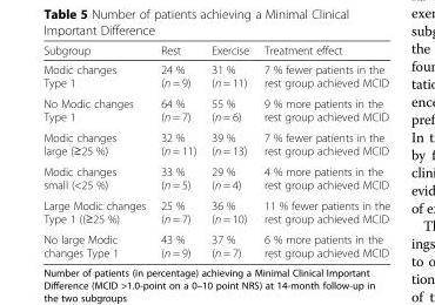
<table><thead><tr><td>Subgroup</td><td>Rest</td><td>Exercise</td><td>Treatment effect</td></tr></thead><tbody><tr><td>Modic changes Type 1</td><td>24 % (n = 9)</td><td>31 % (n = 11)</td><td>7 % fewer patients in the rest group achieved MCID</td></tr><tr><td>No Modic changes Type 1</td><td>64 % (n = 7)</td><td>55 % (n = 6)</td><td>9 % more patients in the rest group achieved MCID</td></tr><tr><td>Modic changes large (≥25 %)</td><td>32 % (n = 11)</td><td>39 % (n = 13)</td><td>7 % fewer patients in the rest group achieved MCID</td></tr><tr><td>Modic changes small (&lt;25 %)</td><td>33 % (n = 5)</td><td>29 % (n = 4)</td><td>4 % more patients in the rest group achieved MCID</td></tr><tr><td>Large Modic changes Type 1 ((≥25 %)</td><td>25 % (n = 7)</td><td>36 % (n = 10)</td><td>11 % fewer patients in the rest group achieved MCID</td></tr><tr><td>No large Modic changes Type 1</td><td>43 % (n = 9)</td><td>37 % (n = 7)</td><td>6 % more patients in the rest group achieved MCID</td></tr></tbody></table>